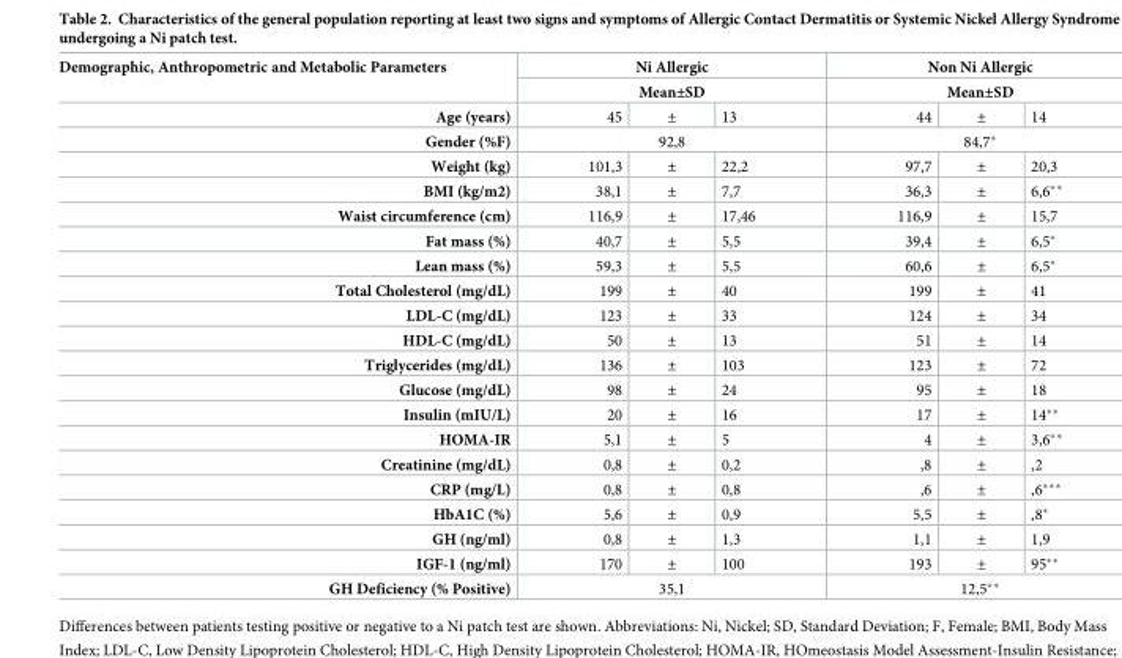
<table><thead><tr><td rowspan="3">Demographic, Anthropometric and Metabolic Parameters Age (years)</td><td rowspan="2" colspan="3">Ni Allergic Mean±SD</td><td rowspan="2" colspan="3">Non Ni Allergic Mean±SD</td></tr><tr></tr><tr><td>45</td><td>±</td><td>13</td><td>44</td><td>±</td><td>14</td></tr></thead><tbody><tr><td>Gender (%F)</td><td colspan="3">92,8</td><td colspan="3">84,7*</td></tr><tr><td>Weight (kg)</td><td>101,3</td><td>±</td><td>22,2</td><td>97,7</td><td>±</td><td>20,3</td></tr><tr><td>BMI (kg/m2)</td><td>38,1</td><td>±</td><td>7,7</td><td>36,3</td><td>±</td><td>6,6**</td></tr><tr><td>Waist circumference (cm)</td><td>116,9</td><td>±</td><td>17,46</td><td>116,9</td><td>±</td><td>15,7</td></tr><tr><td>Fat mass (%)</td><td>40,7</td><td>±</td><td>5,5</td><td>39,4</td><td>±</td><td>6,5*</td></tr><tr><td>Lean mass (%)</td><td>59,3</td><td>±</td><td>5,5</td><td>60,6</td><td>±</td><td>6,5*</td></tr><tr><td>Total Cholesterol (mg/dL)</td><td>199</td><td>±</td><td>40</td><td>199</td><td>±</td><td>41</td></tr><tr><td>LDL-C (mg/dL)</td><td>123</td><td>±</td><td>33</td><td>124</td><td>±</td><td>34</td></tr><tr><td>HDL-C (mg/dL)</td><td>50</td><td>±</td><td>13</td><td>51</td><td>±</td><td>14</td></tr><tr><td>Triglycerides (mg/dL)</td><td>136</td><td>±</td><td>103</td><td>123</td><td>±</td><td>72</td></tr><tr><td>Glucose (mg/dL)</td><td>98</td><td>±</td><td>24</td><td>95</td><td>±</td><td>18</td></tr><tr><td>Insulin (mIU/L)</td><td>20</td><td>±</td><td>16</td><td>17</td><td>±</td><td>14**</td></tr><tr><td>HOMA-IR</td><td>5,1</td><td>±</td><td>5</td><td>4</td><td>±</td><td>3,6**</td></tr><tr><td>Creatinine (mg/dL)</td><td>0,8</td><td>±</td><td>0,2</td><td>,8</td><td>±</td><td>,2</td></tr><tr><td>CRP (mg/L)</td><td>0,8</td><td>±</td><td>0,8</td><td>,6</td><td>±</td><td>,6***</td></tr><tr><td>HbA1C (%)</td><td>5,6</td><td>±</td><td>0,9</td><td>5,5</td><td>±</td><td>,8*</td></tr><tr><td>GH (ng/ml)</td><td>0,8</td><td>±</td><td>1,3</td><td>1,1</td><td>±</td><td>1,9</td></tr><tr><td>IGF-1 (ng/ml)</td><td>170</td><td>±</td><td>100</td><td>193</td><td>±</td><td>95**</td></tr><tr><td>GH Deficiency (% Positive)</td><td colspan="3">35,1</td><td colspan="3">12,5**</td></tr></tbody></table>